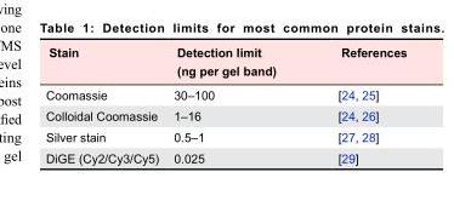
<table><tbody><tr><td>Stain</td><td>Detection limit (ng per gel band)</td><td>References</td></tr><tr><td>Coomassie</td><td>30–100</td><td>[24, 25]</td></tr><tr><td>Colloidal Coomassie</td><td>1–16</td><td>[24, 26]</td></tr><tr><td>Silver stain</td><td>0.5–1</td><td>[27, 28]</td></tr><tr><td>DiGE (Cy2/Cy3/Cy5)</td><td>0.025</td><td>[29]</td></tr></tbody></table>